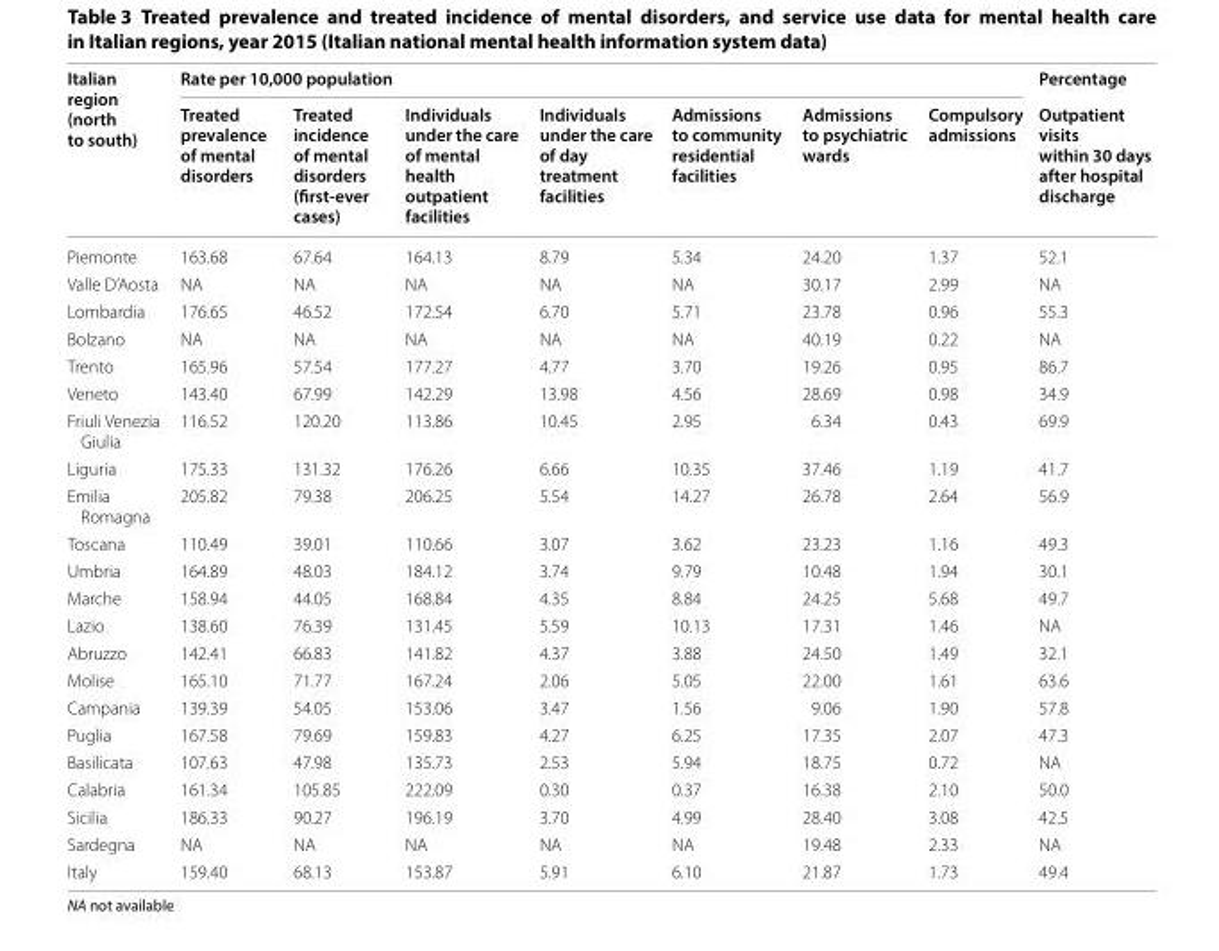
<table><thead><tr><td rowspan="2">Italian region (north to south)</td><td colspan="7">Rate per 10,000 population</td><td rowspan="2">Percentage Outpatient visits within 30 days after hospital discharge</td></tr><tr><td>Treated prevalence of mental disorders</td><td>Treated incidence of mental disorders (first-ever cases)</td><td>Individuals under the care of mental health outpatient facilities</td><td>Individuals under the care of day treatment facilities</td><td>Admissions to community residential facilities</td><td>Admissions to psychiatric wards</td><td>Compulsory admissions</td></tr></thead><tbody><tr><td>Piemonte</td><td>163.68</td><td>67.64</td><td>164.13</td><td>8.79</td><td>5.34</td><td>24.20</td><td>1.37</td><td>52.1</td></tr><tr><td>Valle D’Aosta</td><td>NA</td><td>NA</td><td>NA</td><td>NA</td><td>NA</td><td>30.17</td><td>2.99</td><td>NA</td></tr><tr><td>Lombardia</td><td>176.65</td><td>46.52</td><td>172.54</td><td>6.70</td><td>5.71</td><td>23.78</td><td>0.96</td><td>55.3</td></tr><tr><td>Bolzano</td><td>NA</td><td>NA</td><td>NA</td><td>NA</td><td>NA</td><td>40.19</td><td>0.22</td><td>NA</td></tr><tr><td>Trento</td><td>165.96</td><td>57.54</td><td>177.27</td><td>4.77</td><td>3.70</td><td>19.26</td><td>0.95</td><td>86.7</td></tr><tr><td>Veneto</td><td>143.40</td><td>67.99</td><td>142.29</td><td>13.98</td><td>4.56</td><td>28.69</td><td>0.98</td><td>34.9</td></tr><tr><td>Friuli Venezia Giulia</td><td>116.52</td><td>120.20</td><td>113.86</td><td>10.45</td><td>2.95</td><td>6.34</td><td>0.43</td><td>69.9</td></tr><tr><td>Liguria</td><td>175.33</td><td>131.32</td><td>176.26</td><td>6.66</td><td>10.35</td><td>37.46</td><td>1.19</td><td>41.7</td></tr><tr><td>Emilia Romagna</td><td>205.82</td><td>79.38</td><td>206.25</td><td>5.54</td><td>14.27</td><td>26.78</td><td>2.64</td><td>56.9</td></tr><tr><td>Toscana</td><td>110.49</td><td>39.01</td><td>110.66</td><td>3.07</td><td>3.62</td><td>23.23</td><td>1.16</td><td>49.3</td></tr><tr><td>Umbria</td><td>164.89</td><td>48.03</td><td>184.12</td><td>3.74</td><td>9.79</td><td>10.48</td><td>1.94</td><td>30.1</td></tr><tr><td>Marche</td><td>158.94</td><td>44.05</td><td>168.84</td><td>4.35</td><td>8.84</td><td>24.25</td><td>5.68</td><td>49.7</td></tr><tr><td>Lazio</td><td>138.60</td><td>76.39</td><td>131.45</td><td>5.59</td><td>10.13</td><td>17.31</td><td>1.46</td><td>NA</td></tr><tr><td>Abruzzo</td><td>142.41</td><td>66.83</td><td>141.82</td><td>4.37</td><td>3.88</td><td>24.50</td><td>1.49</td><td>32.1</td></tr><tr><td>Molise</td><td>165.10</td><td>71.77</td><td>167.24</td><td>2.06</td><td>5.05</td><td>22.00</td><td>1.61</td><td>63.6</td></tr><tr><td>Campania</td><td>139.39</td><td>54.05</td><td>153.06</td><td>3.47</td><td>1.56</td><td>9.06</td><td>1.90</td><td>57.8</td></tr><tr><td>Puglia</td><td>167.58</td><td>79.69</td><td>159.83</td><td>4.27</td><td>6.25</td><td>17.35</td><td>2.07</td><td>47.3</td></tr><tr><td>Basilicata</td><td>107.63</td><td>47.98</td><td>135.73</td><td>2.53</td><td>5.94</td><td>18.75</td><td>0.72</td><td>NA</td></tr><tr><td>Calabria</td><td>161.34</td><td>105.85</td><td>222.09</td><td>0.30</td><td>0.37</td><td>16.38</td><td>2.10</td><td>50.0</td></tr><tr><td>Sicilia</td><td>186.33</td><td>90.27</td><td>196.19</td><td>3.70</td><td>4.99</td><td>28.40</td><td>3.08</td><td>42.5</td></tr><tr><td>Sardegna</td><td>NA</td><td>NA</td><td>NA</td><td>NA</td><td>NA</td><td>19.48</td><td>2.33</td><td>NA</td></tr><tr><td>Italy</td><td>159.40</td><td>68.13</td><td>153.87</td><td>5.91</td><td>6.10</td><td>21.87</td><td>1.73</td><td>49.4</td></tr></tbody></table>